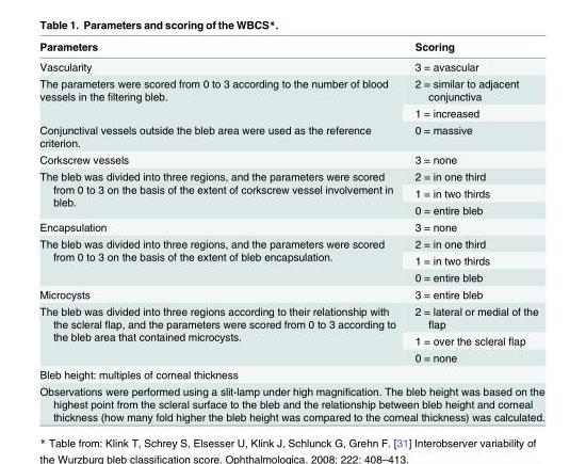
<table><thead><tr><td>Parameters</td><td>Scoring</td></tr></thead><tbody><tr><td>Vascularity</td><td>3 = avascular</td></tr><tr><td rowspan="2">The parameters were scored from 0 to 3 according to the number of blood vessels in the filtering bleb.</td><td>2 = similar to adjacent conjunctiva</td></tr><tr><td>1 = increased</td></tr><tr><td>Conjunctival vessels outside the bleb area were used as the reference criterion.</td><td>0 = massive</td></tr><tr><td>Corkscrew vessels</td><td>3 = none</td></tr><tr><td rowspan="3">The bleb was divided into three regions, and the parameters were scored from 0 to 3 on the basis of the extent of corkscrew vessel involvement in bleb.</td><td>2 = in one third</td></tr><tr><td>1 = in two thirds</td></tr><tr><td>0 = entire bleb</td></tr><tr><td>Encapsulation</td><td>3 = none</td></tr><tr><td rowspan="3">The bleb was divided into three regions, and the parameters were scored from 0 to 3 on the basis of the extent of bleb encapsulation.</td><td>2 = in one third</td></tr><tr><td>1 = in two thirds</td></tr><tr><td>0 = entire bleb</td></tr><tr><td>Microcysts</td><td>3 = entire bleb</td></tr><tr><td rowspan="3">The bleb was divided into three regions according to their relationship with the scleral flap, and the parameters were scored from 0 to 3 according to the bleb area that contained microcysts.</td><td>2 = lateral or medial of the flap</td></tr><tr><td>1 = over the scleral flap</td></tr><tr><td>0 = none</td></tr><tr><td colspan="2">Bleb height: multiples of corneal thickness</td></tr><tr><td colspan="2">Observations were performed using a slit-lamp under high magnification. The bleb height was based on the highest point from the scleral surface to the bleb and the relationship between bleb height and corneal thickness (how many fold higher the bleb height was compared to the corneal thickness) was calculated.</td></tr></tbody></table>